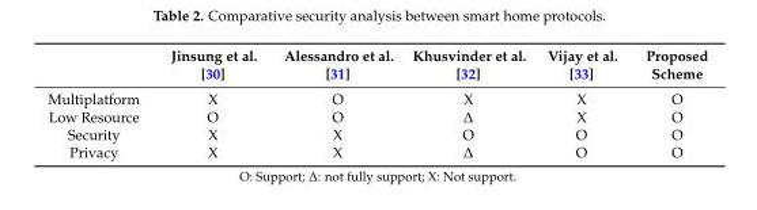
<table><thead><tr><td></td><td>Jinsung et al. [30]</td><td>Alessandro et al. [31]</td><td>Khusvinder et al. [32]</td><td>Vijay et al. [33]</td><td>Proposed Scheme</td></tr></thead><tbody><tr><td>Multiplatform</td><td>X</td><td>O</td><td>X</td><td>X</td><td>O</td></tr><tr><td>Low Resource</td><td>O</td><td>O</td><td>∆</td><td>X</td><td>O</td></tr><tr><td>Security</td><td>X</td><td>X</td><td>O</td><td>O</td><td>O</td></tr><tr><td>Privacy</td><td>X</td><td>X</td><td>∆</td><td>O</td><td>O</td></tr></tbody></table>